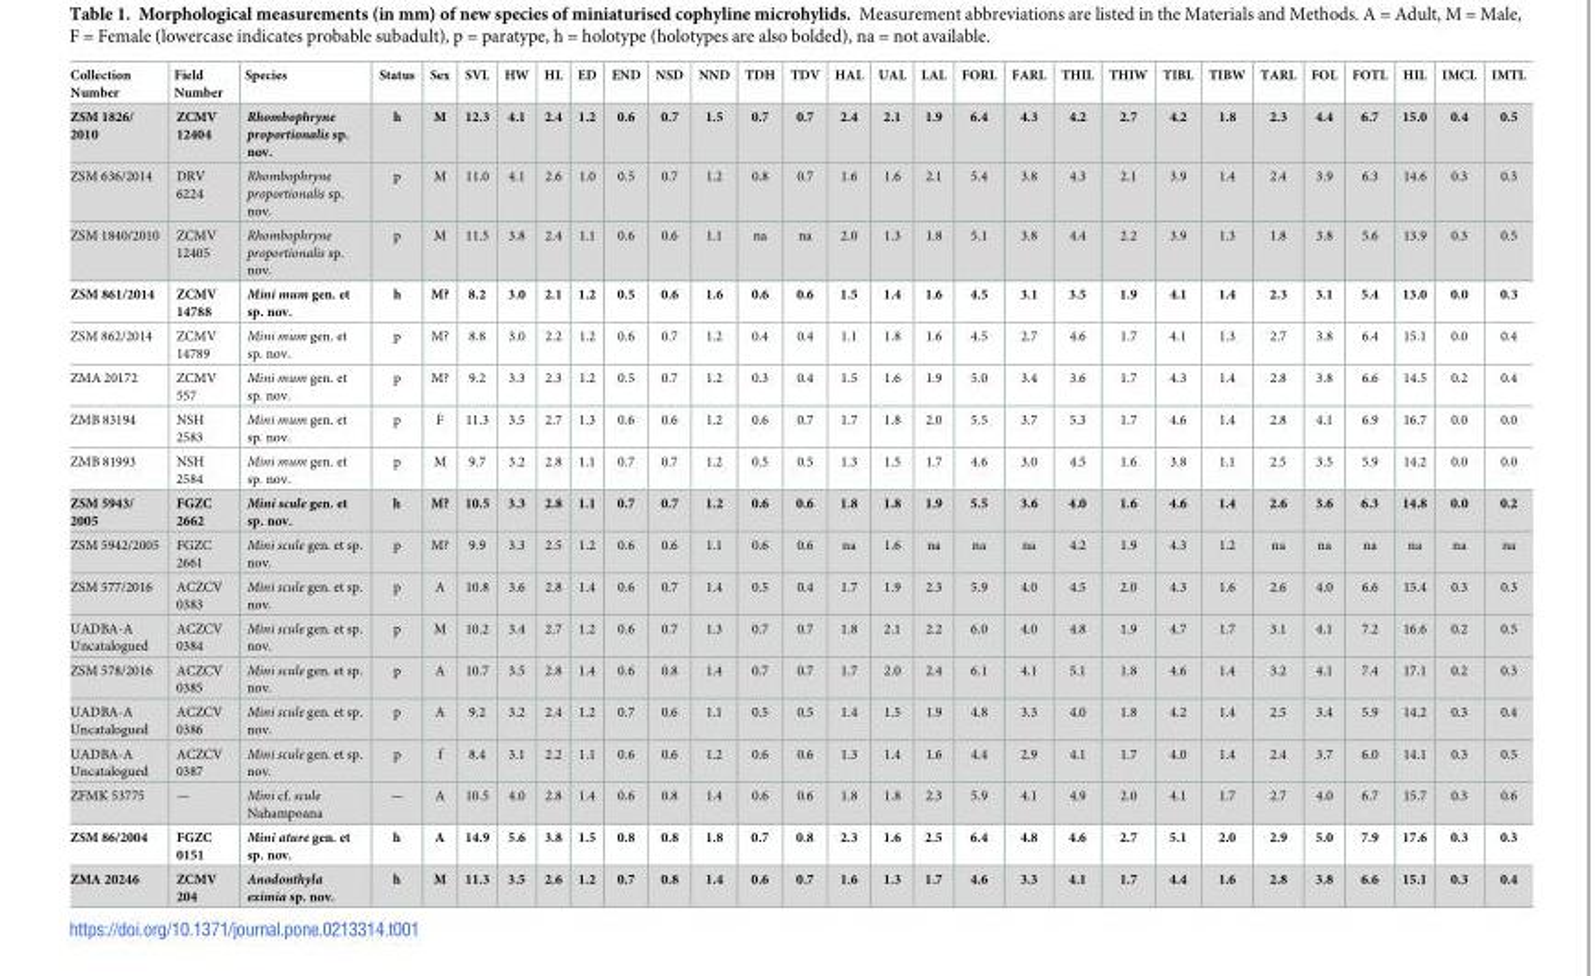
<table><thead><tr><td>Collection Number</td><td>Field Number</td><td>Species</td><td>Status</td><td>Sex</td><td>SVL</td><td>HW</td><td>HL</td><td>ED</td><td>END</td><td>NSD</td><td>NND</td><td>TDH</td><td>TDV</td><td>HAL</td><td>UAL</td><td>LAL</td><td>FORL</td><td>FARL</td><td>THIL</td><td>THIW</td><td>TIBL</td><td>TIBW</td><td>TARL</td><td>FOL</td><td>FOTL</td><td>HIL</td><td>IMCL</td><td>IMTL</td></tr></thead><tbody><tr><td>ZSM 1826/ 2010</td><td>ZCMV 12404</td><td>Rhombophryne proportionalis sp. nov.</td><td>h</td><td>M</td><td>12.3</td><td>4.1</td><td>2.4</td><td>1.2</td><td>0.6</td><td>0.7</td><td>1.5</td><td>0.7</td><td>0.7</td><td>2.4</td><td>2.1</td><td>1.9</td><td>6.4</td><td>4.3</td><td>4.2</td><td>2.7</td><td>4.2</td><td>1.8</td><td>2.3</td><td>4.4</td><td>6.7</td><td>15.0</td><td>0.4</td><td>0.5</td></tr><tr><td>ZSM 636/2014</td><td>DRV 6224</td><td>Rhombophryne proportionalis sp. nov.</td><td>p</td><td>M</td><td>11.0</td><td>4.1</td><td>2.6</td><td>1.0</td><td>0.5</td><td>0.7</td><td>1.2</td><td>0.8</td><td>0.7</td><td>1.6</td><td>1.6</td><td>2.1</td><td>5.4</td><td>3.8</td><td>4.3</td><td>2.1</td><td>3.9</td><td>1.4</td><td>2.4</td><td>3.9</td><td>6.3</td><td>14.6</td><td>0.3</td><td>0.3</td></tr><tr><td>ZSM 1840/2010</td><td>ZCMV 12405</td><td>Rhombophryne proportionalis sp. nov.</td><td>p</td><td>M</td><td>11.5</td><td>3.8</td><td>2.4</td><td>1.1</td><td>0.6</td><td>0.6</td><td>1.1</td><td>na</td><td>na</td><td>2.0</td><td>1.3</td><td>1.8</td><td>5.1</td><td>3.8</td><td>4.4</td><td>2.2</td><td>3.9</td><td>1.3</td><td>1.8</td><td>3.8</td><td>5.6</td><td>13.9</td><td>0.3</td><td>0.5</td></tr><tr><td>ZSM 861/2014</td><td>ZCMV 14788</td><td>Mini mum gen. et sp. nov.</td><td>h</td><td>M?</td><td>8.2</td><td>3.0</td><td>2.1</td><td>1.2</td><td>0.5</td><td>0.6</td><td>1.6</td><td>0.6</td><td>0.6</td><td>1.5</td><td>1.4</td><td>1.6</td><td>4.5</td><td>3.1</td><td>3.5</td><td>1.9</td><td>4.1</td><td>1.4</td><td>2.3</td><td>3.1</td><td>5.4</td><td>13.0</td><td>0.0</td><td>0.3</td></tr><tr><td>ZSM 862/2014</td><td>ZCMV 14789</td><td>Mini mum gen. et sp. nov.</td><td>p</td><td>M?</td><td>8.8</td><td>3.0</td><td>2.2</td><td>1.2</td><td>0.6</td><td>0.7</td><td>1.2</td><td>0.4</td><td>0.4</td><td>1.1</td><td>1.8</td><td>1.6</td><td>4.5</td><td>2.7</td><td>4.6</td><td>1.7</td><td>4.1</td><td>1.3</td><td>2.7</td><td>3.8</td><td>6.4</td><td>15.1</td><td>0.0</td><td>0.4</td></tr><tr><td>ZMA 20172</td><td>ZCMV 557</td><td>Mini mum gen. et sp. nov.</td><td>p</td><td>M?</td><td>9.2</td><td>3.3</td><td>2.3</td><td>1.2</td><td>0.5</td><td>0.7</td><td>1.2</td><td>0.3</td><td>0.4</td><td>1.5</td><td>1.6</td><td>1.9</td><td>5.0</td><td>3.4</td><td>3.6</td><td>1.7</td><td>4.3</td><td>1.4</td><td>2.8</td><td>3.8</td><td>6.6</td><td>14.5</td><td>0.2</td><td>0.4</td></tr><tr><td>ZMB 83194</td><td>NSH 2583</td><td>Mini mum gen. et sp. nov.</td><td>p</td><td>F</td><td>11.3</td><td>3.5</td><td>2.7</td><td>1.3</td><td>0.6</td><td>0.6</td><td>1.2</td><td>0.6</td><td>0.7</td><td>1.7</td><td>1.8</td><td>2.0</td><td>5.5</td><td>3.7</td><td>5.3</td><td>1.7</td><td>4.6</td><td>1.4</td><td>2.8</td><td>4.1</td><td>6.9</td><td>16.7</td><td>0.0</td><td>0.0</td></tr><tr><td>ZMB 81993</td><td>NSH 2584</td><td>Mini mum gen. et sp. nov.</td><td>p</td><td>M</td><td>9.7</td><td>3.2</td><td>2.8</td><td>1.1</td><td>0.7</td><td>0.7</td><td>1.2</td><td>0.5</td><td>0.5</td><td>1.3</td><td>1.5</td><td>1.7</td><td>4.6</td><td>3.0</td><td>4.5</td><td>1.6</td><td>3.8</td><td>1.1</td><td>2.5</td><td>3.5</td><td>5.9</td><td>14.2</td><td>0.0</td><td>0.0</td></tr><tr><td>ZSM 5943/ 2005</td><td>FGZC 2662</td><td>Mini scule gen. et sp. nov.</td><td>h</td><td>M?</td><td>10.5</td><td>3.3</td><td>2.8</td><td>1.1</td><td>0.7</td><td>0.7</td><td>1.2</td><td>0.6</td><td>0.6</td><td>1.8</td><td>1.8</td><td>1.9</td><td>5.5</td><td>3.6</td><td>4.0</td><td>1.6</td><td>4.6</td><td>1.4</td><td>2.6</td><td>3.6</td><td>6.3</td><td>14.8</td><td>0.0</td><td>0.2</td></tr><tr><td>ZSM 5942/2005</td><td>FGZC 2661</td><td>Mini scule gen. et sp. nov.</td><td>p</td><td>M?</td><td>9.9</td><td>3.3</td><td>2.5</td><td>1.2</td><td>0.6</td><td>0.6</td><td>1.1</td><td>0.6</td><td>0.6</td><td>na</td><td>1.6</td><td>na</td><td>na</td><td>na</td><td>4.2</td><td>1.9</td><td>4.3</td><td>1.2</td><td>na</td><td>na</td><td>na</td><td>na</td><td>na</td><td>na</td></tr><tr><td>ZSM 577/2016</td><td>ACZCV 0383</td><td>Mini scule gen. et sp. nov.</td><td>p</td><td>A</td><td>10.8</td><td>3.6</td><td>2.8</td><td>1.4</td><td>0.6</td><td>0.7</td><td>1.4</td><td>0.5</td><td>0.4</td><td>1.7</td><td>1.9</td><td>2.3</td><td>5.9</td><td>4.0</td><td>4.5</td><td>2.0</td><td>4.3</td><td>1.6</td><td>2.6</td><td>4.0</td><td>6.6</td><td>15.4</td><td>0.3</td><td>0.3</td></tr><tr><td>UADBA-A Uncatalogued</td><td>ACZCV 0384</td><td>Mini scule gen. et sp. nov.</td><td>p</td><td>M</td><td>10.2</td><td>3.4</td><td>2.7</td><td>1.2</td><td>0.6</td><td>0.7</td><td>1.3</td><td>0.7</td><td>0.7</td><td>1.8</td><td>2.1</td><td>2.2</td><td>6.0</td><td>4.0</td><td>4.8</td><td>1.9</td><td>4.7</td><td>1.7</td><td>3.1</td><td>4.1</td><td>7.2</td><td>16.6</td><td>0.2</td><td>0.5</td></tr><tr><td>ZSM 578/2016</td><td>ACZCV 0385</td><td>Mini scule gen. et sp. nov.</td><td>p</td><td>A</td><td>10.7</td><td>3.5</td><td>2.8</td><td>1.4</td><td>0.6</td><td>0.8</td><td>1.4</td><td>0.7</td><td>0.7</td><td>1.7</td><td>2.0</td><td>2.4</td><td>6.1</td><td>4.1</td><td>5.1</td><td>1.8</td><td>4.6</td><td>1.4</td><td>3.2</td><td>4.1</td><td>7.4</td><td>17.1</td><td>0.2</td><td>0.3</td></tr><tr><td>UADBA-A Uncatalogued</td><td>ACZCV 0386</td><td>Mini scule gen. et sp. nov.</td><td>p</td><td>A</td><td>9.2</td><td>3.2</td><td>2.4</td><td>1.2</td><td>0.7</td><td>0.6</td><td>1.1</td><td>0.5</td><td>0.5</td><td>1.4</td><td>1.5</td><td>1.9</td><td>4.8</td><td>3.3</td><td>4.0</td><td>1.8</td><td>4.2</td><td>1.4</td><td>2.5</td><td>3.4</td><td>5.9</td><td>14.2</td><td>0.3</td><td>0.4</td></tr><tr><td>UADBA-A Uncatalogued</td><td>ACZCV 0387</td><td>Mini scule gen. et sp. nov.</td><td>p</td><td>f</td><td>8.4</td><td>3.1</td><td>2.2</td><td>1.1</td><td>0.6</td><td>0.6</td><td>1.2</td><td>0.6</td><td>0.6</td><td>1.3</td><td>1.4</td><td>1.6</td><td>4.4</td><td>2.9</td><td>4.1</td><td>1.7</td><td>4.0</td><td>1.4</td><td>2.4</td><td>3.7</td><td>6.0</td><td>14.1</td><td>0.3</td><td>0.5</td></tr><tr><td>ZFMK 53775</td><td>—</td><td>Mini cf. scule Nahampoana</td><td>—</td><td>A</td><td>10.5</td><td>4.0</td><td>2.8</td><td>1.4</td><td>0.6</td><td>0.8</td><td>1.4</td><td>0.6</td><td>0.6</td><td>1.8</td><td>1.8</td><td>2.3</td><td>5.9</td><td>4.1</td><td>4.9</td><td>2.0</td><td>4.1</td><td>1.7</td><td>2.7</td><td>4.0</td><td>6.7</td><td>15.7</td><td>0.3</td><td>0.6</td></tr><tr><td>ZSM 86/2004</td><td>FGZC 0151</td><td>Mini ature gen. et sp. nov.</td><td>h</td><td>A</td><td>14.9</td><td>5.6</td><td>3.8</td><td>1.5</td><td>0.8</td><td>0.8</td><td>1.8</td><td>0.7</td><td>0.8</td><td>2.3</td><td>1.6</td><td>2.5</td><td>6.4</td><td>4.8</td><td>4.6</td><td>2.7</td><td>5.1</td><td>2.0</td><td>2.9</td><td>5.0</td><td>7.9</td><td>17.6</td><td>0.3</td><td>0.3</td></tr><tr><td>ZMA 20246</td><td>ZCMV 204</td><td>Anodonthyla eximia sp. nov.</td><td>h</td><td>M</td><td>11.3</td><td>3.5</td><td>2.6</td><td>1.2</td><td>0.7</td><td>0.8</td><td>1.4</td><td>0.6</td><td>0.7</td><td>1.6</td><td>1.3</td><td>1.7</td><td>4.6</td><td>3.3</td><td>4.1</td><td>1.7</td><td>4.4</td><td>1.6</td><td>2.8</td><td>3.8</td><td>6.6</td><td>15.1</td><td>0.3</td><td>0.4</td></tr></tbody></table>